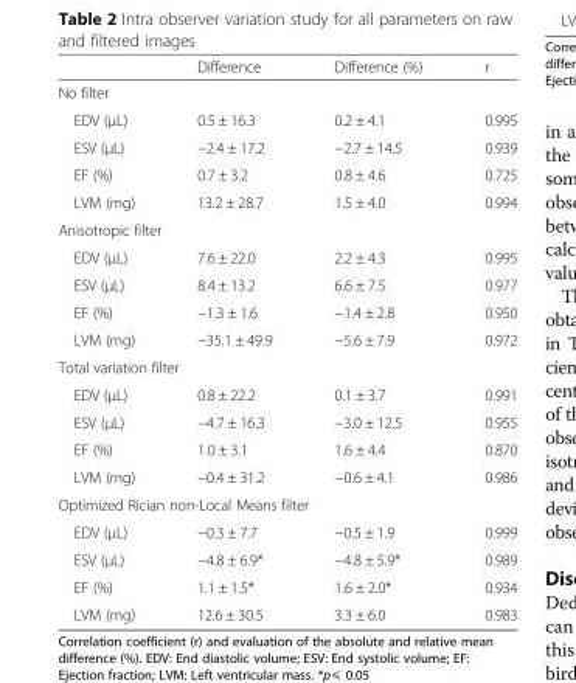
<table><thead><tr><td></td><td>Difference</td><td>Difference (%)</td><td>r</td></tr></thead><tbody><tr><td colspan="4">No filter</td></tr><tr><td>EDV (μL)</td><td>0.5 ± 16.3</td><td>0.2 ± 4.1</td><td>0.995</td></tr><tr><td>ESV (μL)</td><td>−2.4 ± 17.2</td><td>−2.7 ± 14.5</td><td>0.939</td></tr><tr><td>EF (%)</td><td>0.7 ± 3.2</td><td>0.8 ± 4.6</td><td>0.725</td></tr><tr><td>LVM (mg)</td><td>13.2 ± 28.7</td><td>1.5 ± 4.0</td><td>0.994</td></tr><tr><td colspan="4">Anisotropic filter</td></tr><tr><td>EDV (μL)</td><td>7.6 ± 22.0</td><td>2.2 ± 4.3</td><td>0.995</td></tr><tr><td>ESV (μL)</td><td>8.4 ± 13.2</td><td>6.6 ± 7.5</td><td>0.977</td></tr><tr><td>EF (%)</td><td>−1.3 ± 1.6</td><td>−1.4 ± 2.8</td><td>0.950</td></tr><tr><td>LVM (mg)</td><td>−35.1 ± 49.9</td><td>−5.6 ± 7.9</td><td>0.972</td></tr><tr><td colspan="4">Total variation filter</td></tr><tr><td>EDV (μL)</td><td>0.8 ± 22.2</td><td>0.1 ± 3.7</td><td>0.991</td></tr><tr><td>ESV (μL)</td><td>−4.7 ± 16.3</td><td>−3.0 ± 12.5</td><td>0.955</td></tr><tr><td>EF (%)</td><td>1.0 ± 3.1</td><td>1.6 ± 4.4</td><td>0.870</td></tr><tr><td>LVM (mg)</td><td>−0.4 ± 31.2</td><td>−0.6 ± 4.1</td><td>0.986</td></tr><tr><td colspan="4">Optimized Rician non-Local Means filter</td></tr><tr><td>EDV (μL)</td><td>−0.3 ± 7.7</td><td>−0.5 ± 1.9</td><td>0.999</td></tr><tr><td>ESV (μL)</td><td>−4.8 ± 6.9*</td><td>−4.8 ± 5.9*</td><td>0.989</td></tr><tr><td>EF (%)</td><td>1.1 ± 1.5*</td><td>1.6 ± 2.0*</td><td>0.934</td></tr><tr><td>LVM (mg)</td><td>12.6 ± 30.5</td><td>3.3 ± 6.0</td><td>0.983</td></tr></tbody></table>